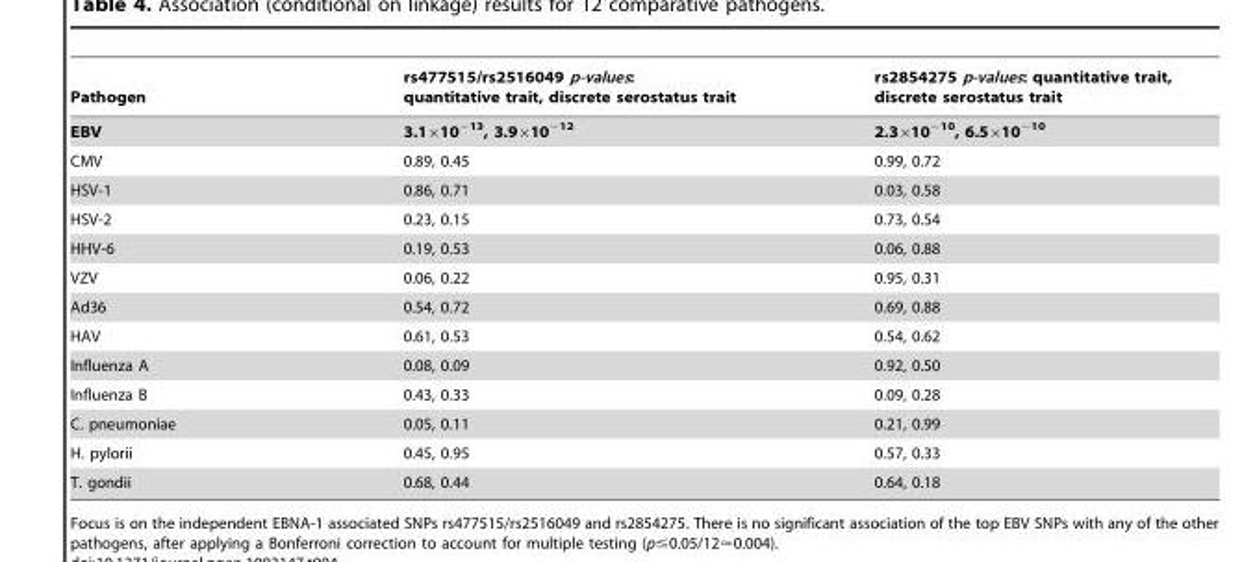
<table><thead><tr><td>Pathogen</td><td>rs477515/rs2516049 p-values: quantitative trait, discrete serostatus trait</td><td>rs2854275 p-values: quantitative trait, discrete serostatus trait</td></tr></thead><tbody><tr><td>EBV</td><td>3.1×10<sup>−13</sup>, 3.9×10<sup>−12</sup></td><td>2.3×10<sup>−10</sup>, 6.5×10<sup>−10</sup></td></tr><tr><td>CMV</td><td>0.89, 0.45</td><td>0.99, 0.72</td></tr><tr><td>HSV-1</td><td>0.86, 0.71</td><td>0.03, 0.58</td></tr><tr><td>HSV-2</td><td>0.23, 0.15</td><td>0.73, 0.54</td></tr><tr><td>HHV-6</td><td>0.19, 0.53</td><td>0.06, 0.88</td></tr><tr><td>VZV</td><td>0.06, 0.22</td><td>0.95, 0.31</td></tr><tr><td>Ad36</td><td>0.54, 0.72</td><td>0.69, 0.88</td></tr><tr><td>HAV</td><td>0.61, 0.53</td><td>0.54, 0.62</td></tr><tr><td>Influenza A</td><td>0.08, 0.09</td><td>0.92, 0.50</td></tr><tr><td>Influenza B</td><td>0.43, 0.33</td><td>0.09, 0.28</td></tr><tr><td>C. pneumoniae</td><td>0.05, 0.11</td><td>0.21, 0.99</td></tr><tr><td>H. pylorii</td><td>0.45, 0.95</td><td>0.57, 0.33</td></tr><tr><td>T. gondii</td><td>0.68, 0.44</td><td>0.64, 0.18</td></tr></tbody></table>